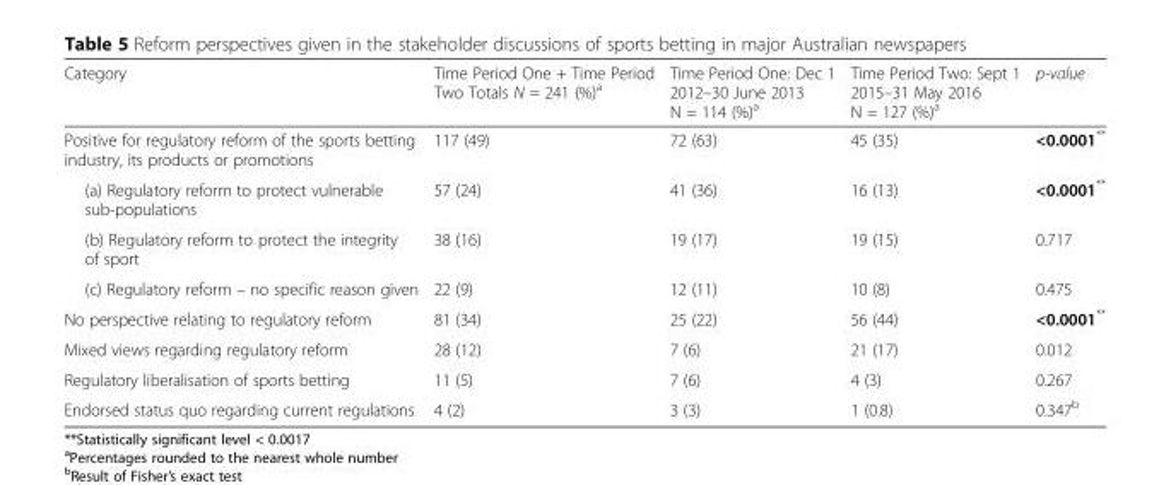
<table><thead><tr><td>Category</td><td>Time Period One + Time Period Two Totals N = 241 (%)<sup>a</sup></td><td>Time Period One: Dec 1 2012–30 June 2013 N = 114 (%)<sup>a</sup></td><td>Time Period Two: Sept 1 2015–31 May 2016 N = 127 (%)<sup>a</sup></td><td>p-value</td></tr></thead><tbody><tr><td>Positive for regulatory reform of the sports betting industry, its products or promotions</td><td>117 (49)</td><td>72 (63)</td><td>45 (35)</td><td>&lt;0.0001**</td></tr><tr><td>(a) Regulatory reform to protect vulnerable sub-populations</td><td>57 (24)</td><td>41 (36)</td><td>16 (13)</td><td>&lt;0.0001**</td></tr><tr><td>(b) Regulatory reform to protect the integrity of sport</td><td>38 (16)</td><td>19 (17)</td><td>19 (15)</td><td>0.717</td></tr><tr><td>(c) Regulatory reform – no specific reason given</td><td>22 (9)</td><td>12 (11)</td><td>10 (8)</td><td>0.475</td></tr><tr><td>No perspective relating to regulatory reform</td><td>81 (34)</td><td>25 (22)</td><td>56 (44)</td><td>&lt;0.0001**</td></tr><tr><td>Mixed views regarding regulatory reform</td><td>28 (12)</td><td>7 (6)</td><td>21 (17)</td><td>0.012</td></tr><tr><td>Regulatory liberalisation of sports betting</td><td>11 (5)</td><td>7 (6)</td><td>4 (3)</td><td>0.267</td></tr><tr><td>Endorsed status quo regarding current regulations</td><td>4 (2)</td><td>3 (3)</td><td>1 (0.8)</td><td>0.347<sup>b</sup></td></tr></tbody></table>